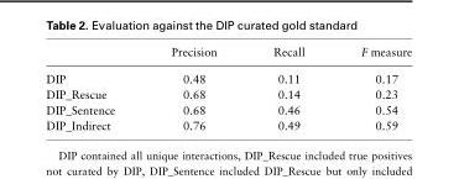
<table><thead><tr><td></td><td>Precision</td><td>Recall</td><td>F measure</td></tr></thead><tbody><tr><td>DIP</td><td>0.48</td><td>0.11</td><td>0.17</td></tr><tr><td>DIP_Rescue</td><td>0.68</td><td>0.14</td><td>0.23</td></tr><tr><td>DIP_Sentence</td><td>0.68</td><td>0.46</td><td>0.54</td></tr><tr><td>DIP_Indirect</td><td>0.76</td><td>0.49</td><td>0.59</td></tr></tbody></table>